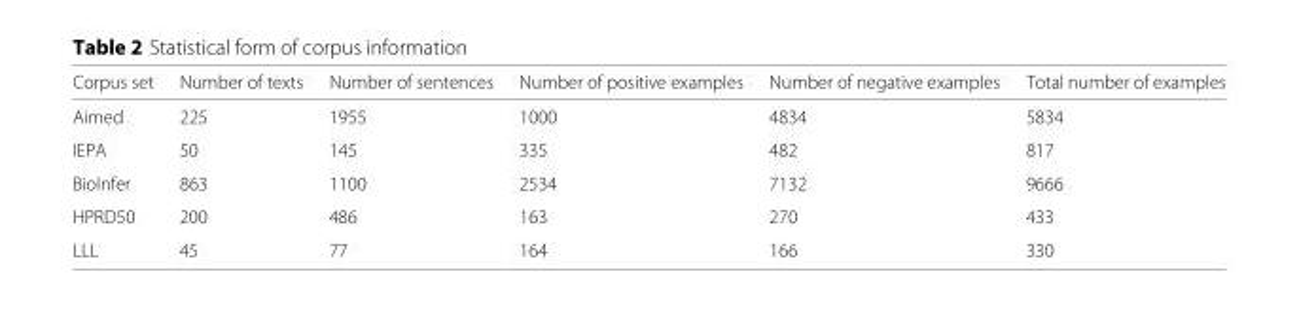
<table><thead><tr><td>Corpus set</td><td>Number of texts</td><td>Number of sentences</td><td>Number of positive examples</td><td>Number of negative examples</td><td>Total number of examples</td></tr></thead><tbody><tr><td>Aimed</td><td>225</td><td>1955</td><td>1000</td><td>4834</td><td>5834</td></tr><tr><td>IEPA</td><td>50</td><td>145</td><td>335</td><td>482</td><td>817</td></tr><tr><td>BioInfer</td><td>863</td><td>1100</td><td>2534</td><td>7132</td><td>9666</td></tr><tr><td>HPRD50</td><td>200</td><td>486</td><td>163</td><td>270</td><td>433</td></tr><tr><td>LLL</td><td>45</td><td>77</td><td>164</td><td>166</td><td>330</td></tr></tbody></table>